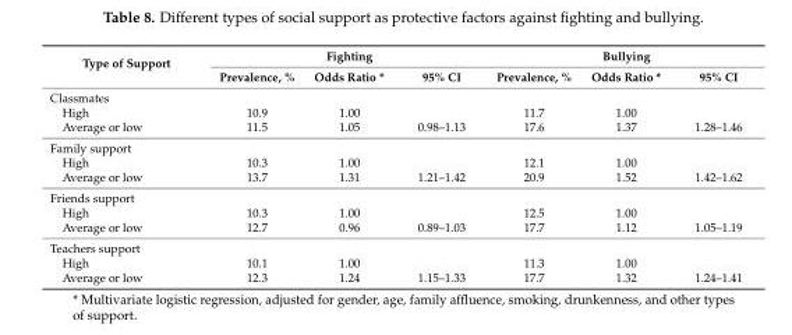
<table><thead><tr><td rowspan="2">Type of Support</td><td colspan="3">Fighting</td><td colspan="3">Bullying</td></tr><tr><td>Prevalence, %</td><td>Odds Ratio *</td><td>95% CI</td><td>Prevalence, %</td><td>Odds Ratio *</td><td>95% CI</td></tr></thead><tbody><tr><td colspan="7">Classmates</td></tr><tr><td>High</td><td>10.9</td><td>1.00</td><td></td><td>11.7</td><td>1.00</td><td></td></tr><tr><td>Average or low</td><td>11.5</td><td>1.05</td><td>0.98–1.13</td><td>17.6</td><td>1.37</td><td>1.28–1.46</td></tr><tr><td colspan="7">Family support</td></tr><tr><td>High</td><td>10.3</td><td>1.00</td><td></td><td>12.1</td><td>1.00</td><td></td></tr><tr><td>Average or low</td><td>13.7</td><td>1.31</td><td>1.21–1.42</td><td>20.9</td><td>1.52</td><td>1.42–1.62</td></tr><tr><td colspan="7">Friends support</td></tr><tr><td>High</td><td>10.3</td><td>1.00</td><td></td><td>12.5</td><td>1.00</td><td></td></tr><tr><td>Average or low</td><td>12.7</td><td>0.96</td><td>0.89–1.03</td><td>17.7</td><td>1.12</td><td>1.05–1.19</td></tr><tr><td colspan="7">Teachers support</td></tr><tr><td>High</td><td>10.1</td><td>1.00</td><td></td><td>11.3</td><td>1.00</td><td></td></tr><tr><td>Average or low</td><td>12.3</td><td>1.24</td><td>1.15–1.33</td><td>17.7</td><td>1.32</td><td>1.24–1.41</td></tr></tbody></table>